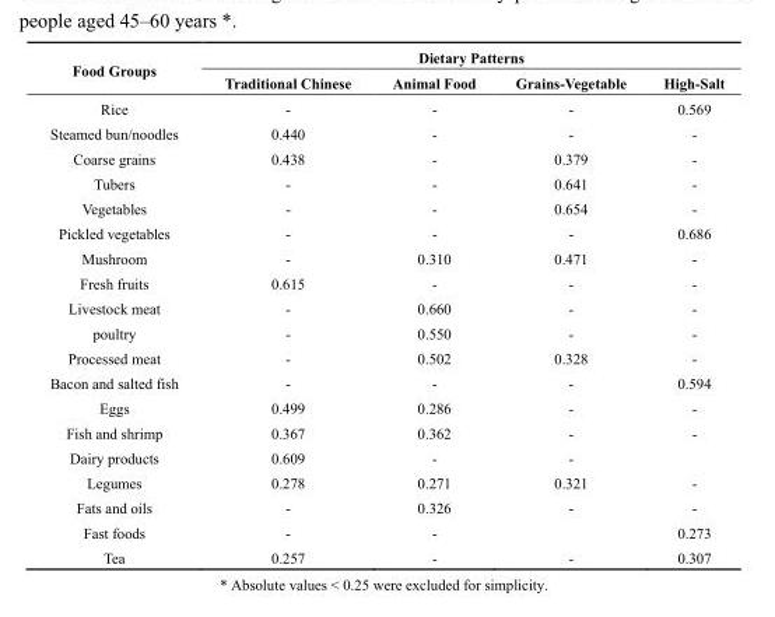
<table><thead><tr><td rowspan="2">Food Groups</td><td colspan="4">Dietary Patterns</td></tr><tr><td>Traditional Chinese</td><td>Animal Food</td><td>Grains-Vegetable</td><td>High-Salt</td></tr></thead><tbody><tr><td>Rice</td><td>-</td><td>-</td><td>-</td><td>0.569</td></tr><tr><td>Steamed bun/noodles</td><td>0.440</td><td>-</td><td>-</td><td>-</td></tr><tr><td>Coarse grains</td><td>0.438</td><td>-</td><td>0.379</td><td>-</td></tr><tr><td>Tubers</td><td>-</td><td>-</td><td>0.641</td><td>-</td></tr><tr><td>Vegetables</td><td>-</td><td>-</td><td>0.654</td><td>-</td></tr><tr><td>Pickled vegetables</td><td>-</td><td>-</td><td>-</td><td>0.686</td></tr><tr><td>Mushroom</td><td>-</td><td>0.310</td><td>0.471</td><td>-</td></tr><tr><td>Fresh fruits</td><td>0.615</td><td>-</td><td>-</td><td>-</td></tr><tr><td>Livestock meat</td><td>-</td><td>0.660</td><td>-</td><td>-</td></tr><tr><td>poultry</td><td>-</td><td>0.550</td><td>-</td><td>-</td></tr><tr><td>Processed meat</td><td>-</td><td>0.502</td><td>0.328</td><td>-</td></tr><tr><td>Bacon and salted fish</td><td>-</td><td>-</td><td>-</td><td>0.594</td></tr><tr><td>Eggs</td><td>0.499</td><td>0.286</td><td>-</td><td>-</td></tr><tr><td>Fish and shrimp</td><td>0.367</td><td>0.362</td><td>-</td><td>-</td></tr><tr><td>Dairy products</td><td>0.609</td><td>-</td><td>-</td><td></td></tr><tr><td>Legumes</td><td>0.278</td><td>0.271</td><td>0.321</td><td>-</td></tr><tr><td>Fats and oils</td><td>-</td><td>0.326</td><td>-</td><td>-</td></tr><tr><td>Fast foods</td><td>-</td><td>-</td><td></td><td>0.273</td></tr><tr><td>Tea</td><td>0.257</td><td>-</td><td>-</td><td>0.307</td></tr></tbody></table>